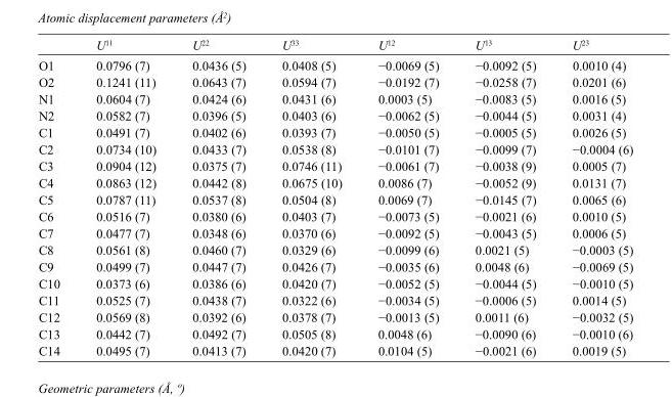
<table><thead><tr><td></td><td>U<sup>11</sup></td><td>U<sup>22</sup></td><td>U<sup>33</sup></td><td>U<sup>12</sup></td><td>U<sup>13</sup></td><td>U<sup>23</sup></td></tr></thead><tbody><tr><td>O1</td><td>0.0796 (7)</td><td>0.0436 (5)</td><td>0.0408 (5)</td><td>−0.0069 (5)</td><td>−0.0092 (5)</td><td>0.0010 (4)</td></tr><tr><td>O2</td><td>0.1241 (11)</td><td>0.0643 (7)</td><td>0.0594 (7)</td><td>−0.0192 (7)</td><td>−0.0258 (7)</td><td>0.0201 (6)</td></tr><tr><td>N1</td><td>0.0604 (7)</td><td>0.0424 (6)</td><td>0.0431 (6)</td><td>0.0003 (5)</td><td>−0.0083 (5)</td><td>0.0016 (5)</td></tr><tr><td>N2</td><td>0.0582 (7)</td><td>0.0396 (5)</td><td>0.0403 (6)</td><td>−0.0062 (5)</td><td>−0.0044 (5)</td><td>0.0031 (4)</td></tr><tr><td>C1</td><td>0.0491 (7)</td><td>0.0402 (6)</td><td>0.0393 (7)</td><td>−0.0050 (5)</td><td>−0.0005 (5)</td><td>0.0026 (5)</td></tr><tr><td>C2</td><td>0.0734 (10)</td><td>0.0433 (7)</td><td>0.0538 (8)</td><td>−0.0101 (7)</td><td>−0.0099 (7)</td><td>−0.0004 (6)</td></tr><tr><td>C3</td><td>0.0904 (12)</td><td>0.0375 (7)</td><td>0.0746 (11)</td><td>−0.0061 (7)</td><td>−0.0038 (9)</td><td>0.0005 (7)</td></tr><tr><td>C4</td><td>0.0863 (12)</td><td>0.0442 (8)</td><td>0.0675 (10)</td><td>0.0086 (7)</td><td>−0.0052 (9)</td><td>0.0131 (7)</td></tr><tr><td>C5</td><td>0.0787 (11)</td><td>0.0537 (8)</td><td>0.0504 (8)</td><td>0.0069 (7)</td><td>−0.0145 (7)</td><td>0.0065 (6)</td></tr><tr><td>C6</td><td>0.0516 (7)</td><td>0.0380 (6)</td><td>0.0403 (7)</td><td>−0.0073 (5)</td><td>−0.0021 (6)</td><td>0.0010 (5)</td></tr><tr><td>C7</td><td>0.0477 (7)</td><td>0.0348 (6)</td><td>0.0370 (6)</td><td>−0.0092 (5)</td><td>−0.0043 (5)</td><td>0.0006 (5)</td></tr><tr><td>C8</td><td>0.0561 (8)</td><td>0.0460 (7)</td><td>0.0329 (6)</td><td>−0.0099 (6)</td><td>0.0021 (5)</td><td>−0.0003 (5)</td></tr><tr><td>C9</td><td>0.0499 (7)</td><td>0.0447 (7)</td><td>0.0426 (7)</td><td>−0.0035 (6)</td><td>0.0048 (6)</td><td>−0.0069 (5)</td></tr><tr><td>C10</td><td>0.0373 (6)</td><td>0.0386 (6)</td><td>0.0420 (7)</td><td>−0.0052 (5)</td><td>−0.0044 (5)</td><td>−0.0010 (5)</td></tr><tr><td>C11</td><td>0.0525 (7)</td><td>0.0438 (7)</td><td>0.0322 (6)</td><td>−0.0034 (5)</td><td>−0.0006 (5)</td><td>0.0014 (5)</td></tr><tr><td>C12</td><td>0.0569 (8)</td><td>0.0392 (6)</td><td>0.0378 (7)</td><td>−0.0013 (5)</td><td>0.0011 (6)</td><td>−0.0032 (5)</td></tr><tr><td>C13</td><td>0.0442 (7)</td><td>0.0492 (7)</td><td>0.0505 (8)</td><td>0.0048 (6)</td><td>−0.0090 (6)</td><td>−0.0010 (6)</td></tr><tr><td>C14</td><td>0.0495 (7)</td><td>0.0413 (7)</td><td>0.0420 (7)</td><td>0.0104 (5)</td><td>−0.0021 (6)</td><td>0.0019 (5)</td></tr></tbody></table>